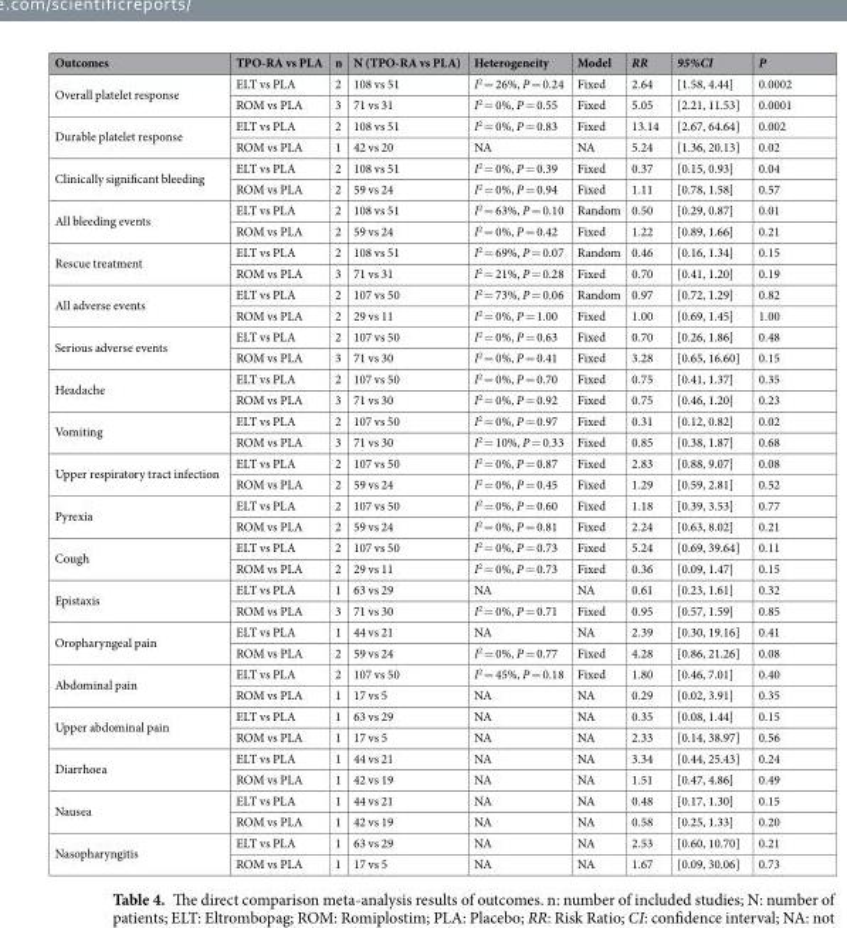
<table><thead><tr><td>Outcomes</td><td>TPO-RA vs PLA</td><td>n</td><td>N (TPO-RA vs PLA)</td><td>Heterogeneity</td><td>Model</td><td>RR</td><td>95%CI</td><td>P</td></tr></thead><tbody><tr><td rowspan="2">Overall platelet response</td><td>ELT vs PLA</td><td>2</td><td>108 vs 51</td><td>I<sup>2</sup> = 26%, P = 0.24</td><td>Fixed</td><td>2.64</td><td>[1.58, 4.44]</td><td>0.0002</td></tr><tr><td>ROM vs PLA</td><td>3</td><td>71 vs 31</td><td>I<sup>2</sup> = 0%, P = 0.55</td><td>Fixed</td><td>5.05</td><td>[2.21, 11.53]</td><td>0.0001</td></tr><tr><td rowspan="2">Durable platelet response</td><td>ELT vs PLA</td><td>2</td><td>108 vs 51</td><td>I<sup>2</sup> = 0%, P = 0.83</td><td>Fixed</td><td>13.14</td><td>[2.67, 64.64]</td><td>0.002</td></tr><tr><td>ROM vs PLA</td><td>1</td><td>42 vs 20</td><td>NA</td><td>NA</td><td>5.24</td><td>[1.36, 20.13]</td><td>0.02</td></tr><tr><td rowspan="2">Clinically significant bleeding</td><td>ELT vs PLA</td><td>2</td><td>108 vs 51</td><td>I<sup>2</sup> = 0%, P = 0.39</td><td>Fixed</td><td>0.37</td><td>[0.15, 0.93]</td><td>0.04</td></tr><tr><td>ROM vs PLA</td><td>2</td><td>59 vs 24</td><td>I<sup>2</sup> = 0%, P = 0.94</td><td>Fixed</td><td>1.11</td><td>[0.78, 1.58]</td><td>0.57</td></tr><tr><td rowspan="2">All bleeding events</td><td>ELT vs PLA</td><td>2</td><td>108 vs 51</td><td>I<sup>2</sup> = 63%, P = 0.10</td><td>Random</td><td>0.50</td><td>[0.29, 0.87]</td><td>0.01</td></tr><tr><td>ROM vs PLA</td><td>2</td><td>59 vs 24</td><td>I<sup>2</sup> = 0%, P = 0.42</td><td>Fixed</td><td>1.22</td><td>[0.89, 1.66]</td><td>0.21</td></tr><tr><td rowspan="2">Rescue treatment</td><td>ELT vs PLA</td><td>2</td><td>108 vs 51</td><td>I<sup>2</sup> = 69%, P = 0.07</td><td>Random</td><td>0.46</td><td>[0.16, 1.34]</td><td>0.15</td></tr><tr><td>ROM vs PLA</td><td>3</td><td>71 vs 31</td><td>I<sup>2</sup> = 21%, P = 0.28</td><td>Fixed</td><td>0.70</td><td>[0.41, 1.20]</td><td>0.19</td></tr><tr><td rowspan="2">All adverse events</td><td>ELT vs PLA</td><td>2</td><td>107 vs 50</td><td>I<sup>2</sup> = 73%, P = 0.06</td><td>Random</td><td>0.97</td><td>[0.72, 1.29]</td><td>0.82</td></tr><tr><td>ROM vs PLA</td><td>2</td><td>29 vs 11</td><td>I<sup>2</sup> = 0%, P = 1.00</td><td>Fixed</td><td>1.00</td><td>[0.69, 1.45]</td><td>1.00</td></tr><tr><td rowspan="2">Serious adverse events</td><td>ELT vs PLA</td><td>2</td><td>107 vs 50</td><td>I<sup>2</sup> = 0%, P = 0.63</td><td>Fixed</td><td>0.70</td><td>[0.26, 1.86]</td><td>0.48</td></tr><tr><td>ROM vs PLA</td><td>3</td><td>71 vs 30</td><td>I<sup>2</sup> = 0%, P = 0.41</td><td>Fixed</td><td>3.28</td><td>[0.65, 16.60]</td><td>0.15</td></tr><tr><td rowspan="2">Headache</td><td>ELT vs PLA</td><td>2</td><td>107 vs 50</td><td>I<sup>2</sup> = 0%, P = 0.70</td><td>Fixed</td><td>0.75</td><td>[0.41, 1.37]</td><td>0.35</td></tr><tr><td>ROM vs PLA</td><td>3</td><td>71 vs 30</td><td>I<sup>2</sup> = 0%, P = 0.92</td><td>Fixed</td><td>0.75</td><td>[0.46, 1.20]</td><td>0.23</td></tr><tr><td rowspan="2">Vomiting</td><td>ELT vs PLA</td><td>2</td><td>107 vs 50</td><td>I<sup>2</sup> = 0%, P = 0.97</td><td>Fixed</td><td>0.31</td><td>[0.12, 0.82]</td><td>0.02</td></tr><tr><td>ROM vs PLA</td><td>3</td><td>71 vs 30</td><td>I<sup>2</sup> = 10%, P = 0.33</td><td>Fixed</td><td>0.85</td><td>[0.38, 1.87]</td><td>0.68</td></tr><tr><td rowspan="2">Upper respiratory tract infection</td><td>ELT vs PLA</td><td>2</td><td>107 vs 50</td><td>I<sup>2</sup> = 0%, P = 0.87</td><td>Fixed</td><td>2.83</td><td>[0.88, 9.07]</td><td>0.08</td></tr><tr><td>ROM vs PLA</td><td>2</td><td>59 vs 24</td><td>I<sup>2</sup> = 0%, P = 0.45</td><td>Fixed</td><td>1.29</td><td>[0.59, 2.81]</td><td>0.52</td></tr><tr><td rowspan="2">Pyrexia</td><td>ELT vs PLA</td><td>2</td><td>107 vs 50</td><td>I<sup>2</sup> = 0%, P = 0.60</td><td>Fixed</td><td>1.18</td><td>[0.39, 3.53]</td><td>0.77</td></tr><tr><td>ROM vs PLA</td><td>2</td><td>59 vs 24</td><td>I<sup>2</sup> = 0%, P = 0.81</td><td>Fixed</td><td>2.24</td><td>[0.63, 8.02]</td><td>0.21</td></tr><tr><td rowspan="2">Cough</td><td>ELT vs PLA</td><td>2</td><td>107 vs 50</td><td>I<sup>2</sup> = 0%, P = 0.73</td><td>Fixed</td><td>5.24</td><td>[0.69, 39.64]</td><td>0.11</td></tr><tr><td>ROM vs PLA</td><td>2</td><td>29 vs 11</td><td>I<sup>2</sup> = 0%, P = 0.73</td><td>Fixed</td><td>0.36</td><td>[0.09, 1.47]</td><td>0.15</td></tr><tr><td rowspan="2">Epistaxis</td><td>ELT vs PLA</td><td>1</td><td>63 vs 29</td><td>NA</td><td>NA</td><td>0.61</td><td>[0.23, 1.61]</td><td>0.32</td></tr><tr><td>ROM vs PLA</td><td>3</td><td>71 vs 30</td><td>I<sup>2</sup> = 0%, P = 0.71</td><td>Fixed</td><td>0.95</td><td>[0.57, 1.59]</td><td>0.85</td></tr><tr><td rowspan="2">Oropharyngeal pain</td><td>ELT vs PLA</td><td>1</td><td>44 vs 21</td><td>NA</td><td>NA</td><td>2.39</td><td>[0.30, 19.16]</td><td>0.41</td></tr><tr><td>ROM vs PLA</td><td>2</td><td>59 vs 24</td><td>I<sup>2</sup> = 0%, P = 0.77</td><td>Fixed</td><td>4.28</td><td>[0.86, 21.26]</td><td>0.08</td></tr><tr><td rowspan="2">Abdominal pain</td><td>ELT vs PLA</td><td>2</td><td>107 vs 50</td><td>I<sup>2</sup> = 45%, P = 0.18</td><td>Fixed</td><td>1.80</td><td>[0.46, 7.01]</td><td>0.40</td></tr><tr><td>ROM vs PLA</td><td>1</td><td>17 vs 5</td><td>NA</td><td>NA</td><td>0.29</td><td>[0.02, 3.91]</td><td>0.35</td></tr><tr><td rowspan="2">Upper abdominal pain</td><td>ELT vs PLA</td><td>1</td><td>63 vs 29</td><td>NA</td><td>NA</td><td>0.35</td><td>[0.08, 1.44]</td><td>0.15</td></tr><tr><td>ROM vs PLA</td><td>1</td><td>17 vs 5</td><td>NA</td><td>NA</td><td>2.33</td><td>[0.14, 38.97]</td><td>0.56</td></tr><tr><td rowspan="2">Diarrhoea</td><td>ELT vs PLA</td><td>1</td><td>44 vs 21</td><td>NA</td><td>NA</td><td>3.34</td><td>[0.44, 25.43]</td><td>0.24</td></tr><tr><td>ROM vs PLA</td><td>1</td><td>42 vs 19</td><td>NA</td><td>NA</td><td>1.51</td><td>[0.47, 4.86]</td><td>0.49</td></tr><tr><td rowspan="2">Nausea</td><td>ELT vs PLA</td><td>1</td><td>44 vs 21</td><td>NA</td><td>NA</td><td>0.48</td><td>[0.17, 1.30]</td><td>0.15</td></tr><tr><td>ROM vs PLA</td><td>1</td><td>42 vs 19</td><td>NA</td><td>NA</td><td>0.58</td><td>[0.25, 1.33]</td><td>0.20</td></tr><tr><td rowspan="2">Nasopharyngitis</td><td>ELT vs PLA</td><td>1</td><td>63 vs 29</td><td>NA</td><td>NA</td><td>2.53</td><td>[0.60, 10.70]</td><td>0.21</td></tr><tr><td>ROM vs PLA</td><td>1</td><td>17 vs 5</td><td>NA</td><td>NA</td><td>1.67</td><td>[0.09, 30.06]</td><td>0.73</td></tr></tbody></table>